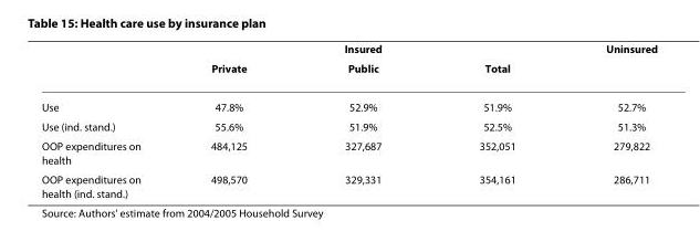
<table><thead><tr><td rowspan="2"></td><td colspan="3">Insured</td><td rowspan="2">Uninsured</td></tr><tr><td>Private</td><td>Public</td><td>Total</td></tr></thead><tbody><tr><td>Use</td><td>47.8%</td><td>52.9%</td><td>51.9%</td><td>52.7%</td></tr><tr><td>Use (ind. stand.)</td><td>55.6%</td><td>51.9%</td><td>52.5%</td><td>51.3%</td></tr><tr><td>OOP expenditures on health</td><td>484,125</td><td>327,687</td><td>352,051</td><td>279,822</td></tr><tr><td>OOP expenditures on health (ind. stand.)</td><td>498,570</td><td>329,331</td><td>354,161</td><td>286,711</td></tr></tbody></table>